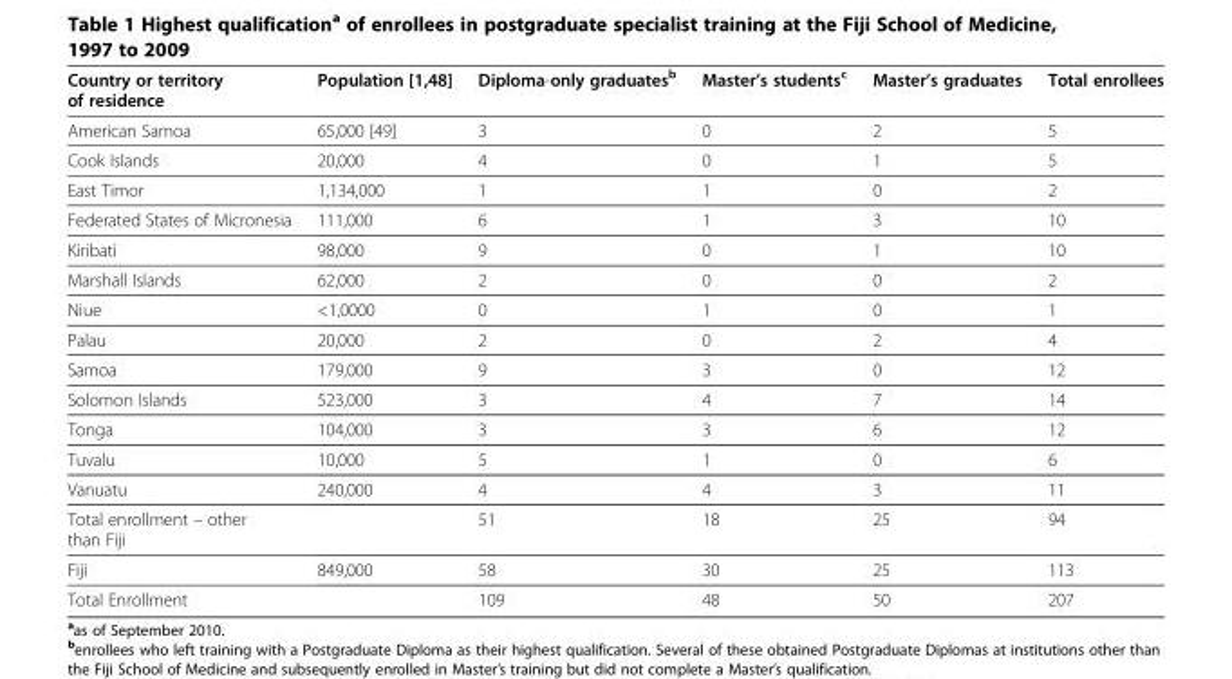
<table><thead><tr><td>Country or territory of residence</td><td>Population [1,48]</td><td>Diploma-only graduates<sup>b</sup></td><td>Master’s students<sup>c</sup></td><td>Master’s graduates</td><td>Total enrollees</td></tr></thead><tbody><tr><td>American Samoa</td><td>65,000 [49]</td><td>3</td><td>0</td><td>2</td><td>5</td></tr><tr><td>Cook Islands</td><td>20,000</td><td>4</td><td>0</td><td>1</td><td>5</td></tr><tr><td>East Timor</td><td>1,134,000</td><td>1</td><td>1</td><td>0</td><td>2</td></tr><tr><td>Federated States of Micronesia</td><td>111,000</td><td>6</td><td>1</td><td>3</td><td>10</td></tr><tr><td>Kiribati</td><td>98,000</td><td>9</td><td>0</td><td>1</td><td>10</td></tr><tr><td>Marshall Islands</td><td>62,000</td><td>2</td><td>0</td><td>0</td><td>2</td></tr><tr><td>Niue</td><td>&lt;1,0000</td><td>0</td><td>1</td><td>0</td><td>1</td></tr><tr><td>Palau</td><td>20,000</td><td>2</td><td>0</td><td>2</td><td>4</td></tr><tr><td>Samoa</td><td>179,000</td><td>9</td><td>3</td><td>0</td><td>12</td></tr><tr><td>Solomon Islands</td><td>523,000</td><td>3</td><td>4</td><td>7</td><td>14</td></tr><tr><td>Tonga</td><td>104,000</td><td>3</td><td>3</td><td>6</td><td>12</td></tr><tr><td>Tuvalu</td><td>10,000</td><td>5</td><td>1</td><td>0</td><td>6</td></tr><tr><td>Vanuatu</td><td>240,000</td><td>4</td><td>4</td><td>3</td><td>11</td></tr><tr><td>Total enrollment – other than Fiji</td><td></td><td>51</td><td>18</td><td>25</td><td>94</td></tr><tr><td>Fiji</td><td>849,000</td><td>58</td><td>30</td><td>25</td><td>113</td></tr><tr><td>Total Enrollment</td><td></td><td>109</td><td>48</td><td>50</td><td>207</td></tr></tbody></table>